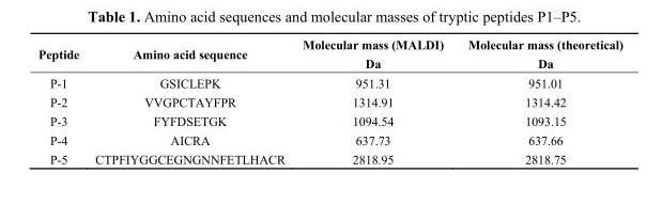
<table><thead><tr><td>Peptide</td><td>Amino acid sequence</td><td>Molecular mass (MALDI) Dа</td><td>Molecular mass (theoretical) Da</td></tr></thead><tbody><tr><td>P-1</td><td>GSICLEPK</td><td>951.31</td><td>951.01</td></tr><tr><td>P-2</td><td>VVGPCTAYFPR</td><td>1314.91</td><td>1314.42</td></tr><tr><td>P-3</td><td>FYFDSETGK</td><td>1094.54</td><td>1093.15</td></tr><tr><td>P-4</td><td>AICRA</td><td>637.73</td><td>637.66</td></tr><tr><td>P-5</td><td>CTPFIYGGCEGNGNNFETLHACR</td><td>2818.95</td><td>2818.75</td></tr></tbody></table>